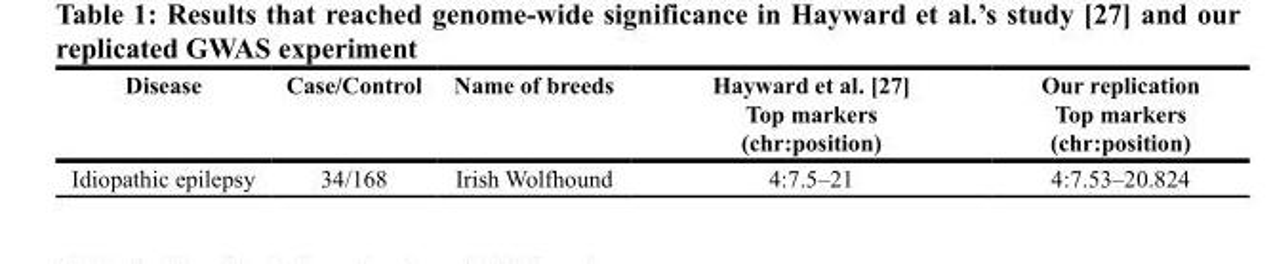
<table><thead><tr><td>Disease</td><td>Case/Control</td><td>Name of breeds</td><td>Hayward et al. [27] Top markers (chr:position)</td><td>Our replication Top markers (chr:position)</td></tr></thead><tbody><tr><td>Idiopathic epilepsy</td><td>34/168</td><td>Irish Wolfhound</td><td>4:7.5–21</td><td>4:7.53–20.824</td></tr></tbody></table>